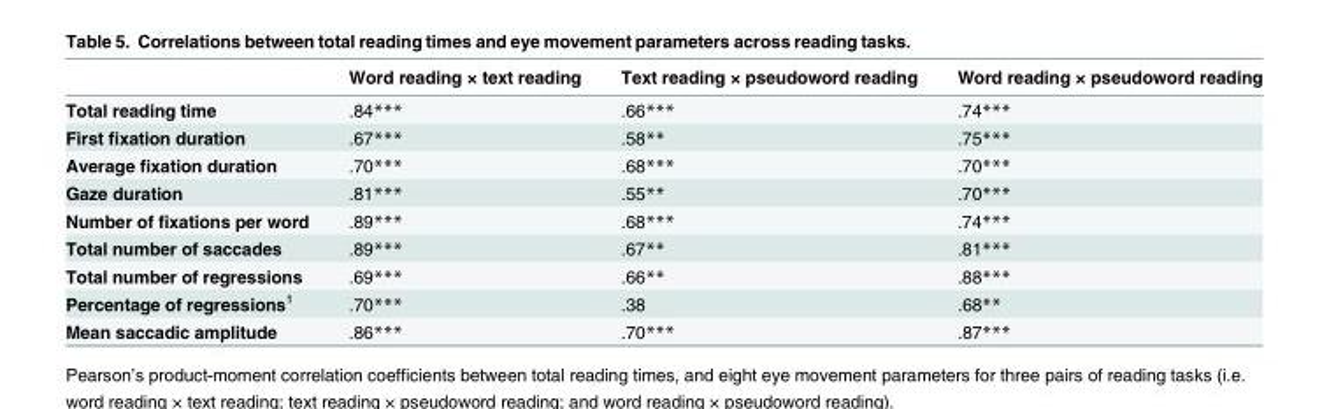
<table><thead><tr><td></td><td>Word reading × text reading</td><td>Text reading × pseudoword reading</td><td>Word reading × pseudoword reading</td></tr></thead><tbody><tr><td>Total reading time</td><td>.84***</td><td>.66***</td><td>.74***</td></tr><tr><td>First fixation duration</td><td>.67***</td><td>.58**</td><td>.75***</td></tr><tr><td>Average fixation duration</td><td>.70***</td><td>.68***</td><td>.70***</td></tr><tr><td>Gaze duration</td><td>.81***</td><td>.55**</td><td>.70***</td></tr><tr><td>Number of fixations per word</td><td>.89***</td><td>.68***</td><td>.74***</td></tr><tr><td>Total number of saccades</td><td>.89***</td><td>.67**</td><td>.81***</td></tr><tr><td>Total number of regressions</td><td>.69***</td><td>.66**</td><td>.88***</td></tr><tr><td>Percentage of regressions<sup>1</sup></td><td>.70***</td><td>.38</td><td>.68**</td></tr><tr><td>Mean saccadic amplitude</td><td>.86***</td><td>.70***</td><td>.87***</td></tr></tbody></table>